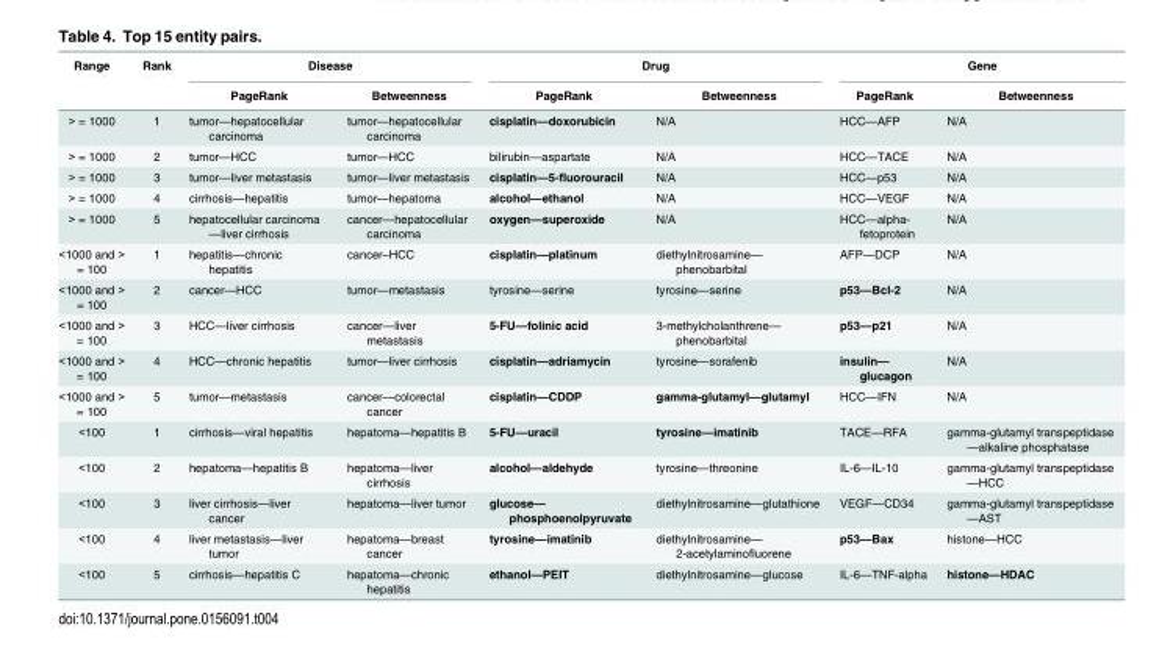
<table><thead><tr><td rowspan="2">Range</td><td rowspan="2">Rank</td><td colspan="2">Disease</td><td colspan="2">Drug</td><td colspan="2">Gene</td></tr><tr><td>PageRank</td><td>Betweenness</td><td>PageRank</td><td>Betweenness</td><td>PageRank</td><td>Betweenness</td></tr></thead><tbody><tr><td>&gt; = 1000</td><td>1</td><td>tumor—hepatocellular carcinoma</td><td>tumor—hepatocellular carcinoma</td><td>cisplatin—doxorubicin</td><td>N/A</td><td>HCC—AFP</td><td>N/A</td></tr><tr><td>&gt; = 1000</td><td>2</td><td>tumor—HCC</td><td>tumor—HCC</td><td>bilirubin—aspartate</td><td>N/A</td><td>HCC—TACE</td><td>N/A</td></tr><tr><td>&gt; = 1000</td><td>3</td><td>tumor—liver metastasis</td><td>tumor—liver metastasis</td><td>cisplatin—5-fluorouracil</td><td>N/A</td><td>HCC—p53</td><td>N/A</td></tr><tr><td>&gt; = 1000</td><td>4</td><td>cirrhosis—hepatitis</td><td>tumor—hepatoma</td><td>alcohol—ethanol</td><td>N/A</td><td>HCC—VEGF</td><td>N/A</td></tr><tr><td>&gt; = 1000</td><td>5</td><td>hepatocellular carcinoma —liver cirrhosis</td><td>cancer—hepatocellular carcinoma</td><td>oxygen—superoxide</td><td>N/A</td><td>HCC—alpha- fetoprotein</td><td>N/A</td></tr><tr><td>&lt;1000 and &gt; = 100</td><td>1</td><td>hepatitis—chronic hepatitis</td><td>cancer–HCC</td><td>cisplatin—platinum</td><td>diethylnitrosamine— phenobarbital</td><td>AFP—DCP</td><td>N/A</td></tr><tr><td>&lt;1000 and &gt; = 100</td><td>2</td><td>cancer—HCC</td><td>tumor—metastasis</td><td>tyrosine—serine</td><td>tyrosine—serine</td><td>p53—Bcl-2</td><td>N/A</td></tr><tr><td>&lt;1000 and &gt; = 100</td><td>3</td><td>HCC—liver cirrhosis</td><td>cancer—liver metastasis</td><td>5-FU—folinic acid</td><td>3-methylcholanthrene— phenobarbital</td><td>p53—p21</td><td>N/A</td></tr><tr><td>&lt;1000 and &gt; = 100</td><td>4</td><td>HCC—chronic hepatitis</td><td>tumor—liver cirrhosis</td><td>cisplatin—adriamycin</td><td>tyrosine—sorafenib</td><td>insulin— glucagon</td><td>N/A</td></tr><tr><td>&lt;1000 and &gt; = 100</td><td>5</td><td>tumor—metastasis</td><td>cancer—colorectal cancer</td><td>cisplatin—CDDP</td><td>gamma-glutamyl—glutamyl</td><td>HCC—IFN</td><td>N/A</td></tr><tr><td>&lt;100</td><td>1</td><td>cirrhosis—viral hepatitis</td><td>hepatoma—hepatitis B</td><td>5-FU—uracil</td><td>tyrosine—imatinib</td><td>TACE—RFA</td><td>gamma-glutamyl transpeptidase —alkaline phosphatase</td></tr><tr><td>&lt;100</td><td>2</td><td>hepatoma—hepatitis B</td><td>hepatoma—liver cirrhosis</td><td>alcohol—aldehyde</td><td>tyrosine—threonine</td><td>IL-6—IL-10</td><td>gamma-glutamyl transpeptidase —HCC</td></tr><tr><td>&lt;100</td><td>3</td><td>liver cirrhosis—liver cancer</td><td>hepatoma—liver tumor</td><td>glucose— phosphoenolpyruvate</td><td>diethylnitrosamine—glutathione</td><td>VEGF—CD34</td><td>gamma-glutamyl transpeptidase —AST</td></tr><tr><td>&lt;100</td><td>4</td><td>liver metastasis—liver tumor</td><td>hepatoma—breast cancer</td><td>tyrosine—imatinib</td><td>diethylnitrosamine— 2-acetylaminofluorene</td><td>p53—Bax</td><td>histone—HCC</td></tr><tr><td>&lt;100</td><td>5</td><td>cirrhosis—hepatitis C</td><td>hepatoma—chronic hepatitis</td><td>ethanol—PEIT</td><td>diethylnitrosamine—glucose</td><td>IL-6—TNF-alpha</td><td>histone—HDAC</td></tr></tbody></table>